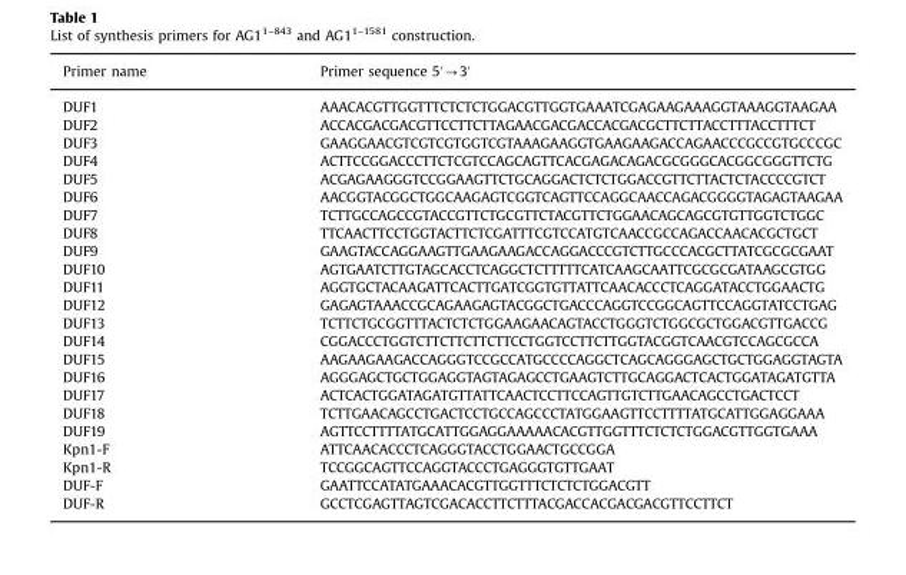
<table><thead><tr><td>Primer name</td><td>Primer sequence 50-30</td></tr></thead><tbody><tr><td>DUF1</td><td>AAACACGTTGGTTTCTCTCTGGACGTTGGTGAAATCGAGAAGAAAGGTAAAGGTAAGAA</td></tr><tr><td>DUF2</td><td>ACCACGACGACGTTCCTTCTTAGAACGACGACCACGACGCTTCTTACCTTTACCTTTCT</td></tr><tr><td>DUF3</td><td>GAAGGAACGTCGTCGTGGTCGTAAAGAAGGTGAAGAAGACCAGAACCCGCCGTGCCCGC</td></tr><tr><td>DUF4</td><td>ACTTCCGGACCCTTCTCGTCCAGCAGTTCACGAGACAGACGCGGGCACGGCGGGTTCTG</td></tr><tr><td>DUF5</td><td>ACGAGAAGGGTCCGGAAGTTCTGCAGGACTCTCTGGACCGTTCTTACTCTACCCCGTCT</td></tr><tr><td>DUF6</td><td>AACGGTACGGCTGGCAAGAGTCGGTCAGTTCCAGGCAACCAGACGGGGTAGAGTAAGAA</td></tr><tr><td>DUF7</td><td>TCTTGCCAGCCGTACCGTTCTGCGTTCTACGTTCTGGAACAGCAGCGTGTTGGTCTGGC</td></tr><tr><td>DUF8</td><td>TTCAACTTCCTGGTACTTCTCGATTTCGTCCATGTCAACCGCCAGACCAACACGCTGCT</td></tr><tr><td>DUF9</td><td>GAAGTACCAGGAAGTTGAAGAAGACCAGGACCCGTCTTGCCCACGCTTATCGCGCGAAT</td></tr><tr><td>DUF10</td><td>AGTGAATCTTGTAGCACCTCAGGCTCTTTTTCATCAAGCAATTCGCGCGATAAGCGTGG</td></tr><tr><td>DUF11</td><td>AGGTGCTACAAGATTCACTTGATCGGTGTTATTCAACACCCTCAGGATACCTGGAACTG</td></tr><tr><td>DUF12</td><td>GAGAGTAAACCGCAGAAGAGTACGGCTGACCCAGGTCCGGCAGTTCCAGGTATCCTGAG</td></tr><tr><td>DUF13</td><td>TCTTCTGCGGTTTACTCTCTGGAAGAACAGTACCTGGGTCTGGCGCTGGACGTTGACCG</td></tr><tr><td>DUF14</td><td>CGGACCCTGGTCTTCTTCTTCTTCCTGGTCCTTCTTGGTACGGTCAACGTCCAGCGCCA</td></tr><tr><td>DUF15</td><td>AAGAAGAAGACCAGGGTCCGCCATGCCCCAGGCTCAGCAGGGAGCTGCTGGAGGTAGTA</td></tr><tr><td>DUF16</td><td>AGGGAGCTGCTGGAGGTAGTAGAGCCTGAAGTCTTGCAGGACTCACTGGATAGATGTTA</td></tr><tr><td>DUF17</td><td>ACTCACTGGATAGATGTTATTCAACTCCTTCCAGTTGTCTTGAACAGCCTGACTCCT</td></tr><tr><td>DUF18</td><td>TCTTGAACAGCCTGACTCCTGCCAGCCCTATGGAAGTTCCTTTTATGCATTGGAGGAAA</td></tr><tr><td>DUF19</td><td>AGTTCCTTTTATGCATTGGAGGAAAAACACGTTGGTTTCTCTCTGGACGTTGGTGAAA</td></tr><tr><td>Kpn1-F</td><td>ATTCAACACCCTCAGGGTACCTGGAACTGCCGGA</td></tr><tr><td>Kpn1-R</td><td>TCCGGCAGTTCCAGGTACCCTGAGGGTGTTGAAT</td></tr><tr><td>DUF-F</td><td>GAATTCCATATGAAACACGTTGGTTTCTCTCTGGACGTT</td></tr><tr><td>DUF-R</td><td>GCCTCGAGTTAGTCGACACCTTCTTTACGACCACGACGACGTTCCTTCT</td></tr></tbody></table>